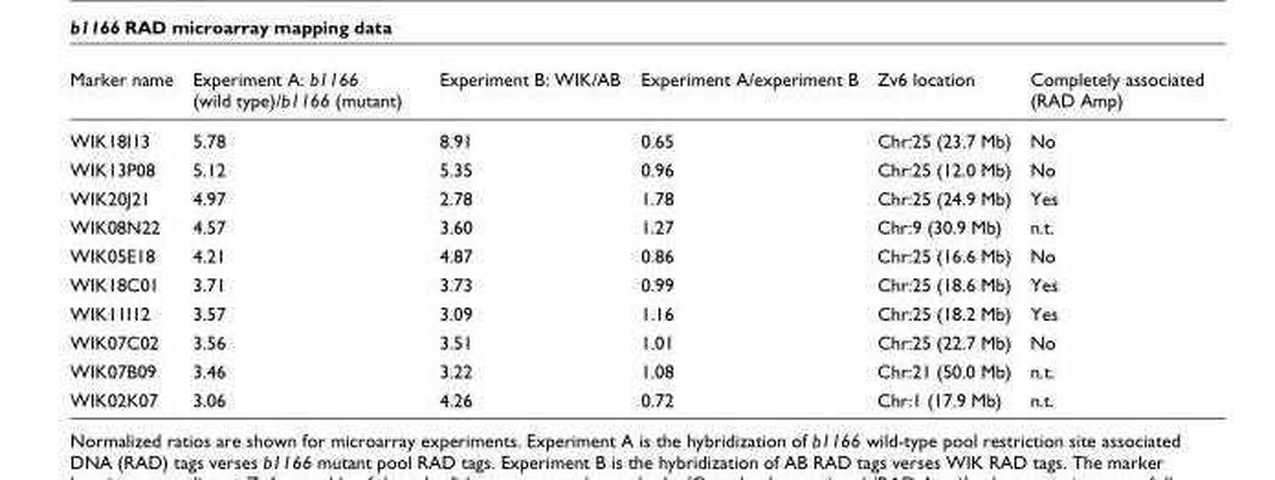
<table><thead><tr><td>Marker name</td><td>Experiment A: b1166 (wild type)/b1166 (mutant)</td><td>Experiment B: WIK/AB</td><td>Experiment A/experiment B</td><td>Zv6 location</td><td>Completely associated (RAD Amp)</td></tr></thead><tbody><tr><td>WIK18I13</td><td>5.78</td><td>8.91</td><td>0.65</td><td>Chr:25 (23.7 Mb)</td><td>No</td></tr><tr><td>WIK13P08</td><td>5.12</td><td>5.35</td><td>0.96</td><td>Chr:25 (12.0 Mb)</td><td>No</td></tr><tr><td>WIK20J21</td><td>4.97</td><td>2.78</td><td>1.78</td><td>Chr:25 (24.9 Mb)</td><td>Yes</td></tr><tr><td>WIK08N22</td><td>4.57</td><td>3.60</td><td>1.27</td><td>Chr:9 (30.9 Mb)</td><td>n.t.</td></tr><tr><td>WIK05E18</td><td>4.21</td><td>4.87</td><td>0.86</td><td>Chr:25 (16.6 Mb)</td><td>No</td></tr><tr><td>WIK18C01</td><td>3.71</td><td>3.73</td><td>0.99</td><td>Chr:25 (18.6 Mb)</td><td>Yes</td></tr><tr><td>WIK11I12</td><td>3.57</td><td>3.09</td><td>1.16</td><td>Chr:25 (18.2 Mb)</td><td>Yes</td></tr><tr><td>WIK07C02</td><td>3.56</td><td>3.51</td><td>1.01</td><td>Chr:25 (22.7 Mb)</td><td>No</td></tr><tr><td>WIK07B09</td><td>3.46</td><td>3.22</td><td>1.08</td><td>Chr:21 (50.0 Mb)</td><td>n.t.</td></tr><tr><td>WIK02K07</td><td>3.06</td><td>4.26</td><td>0.72</td><td>Chr:1 (17.9 Mb)</td><td>n.t.</td></tr></tbody></table>